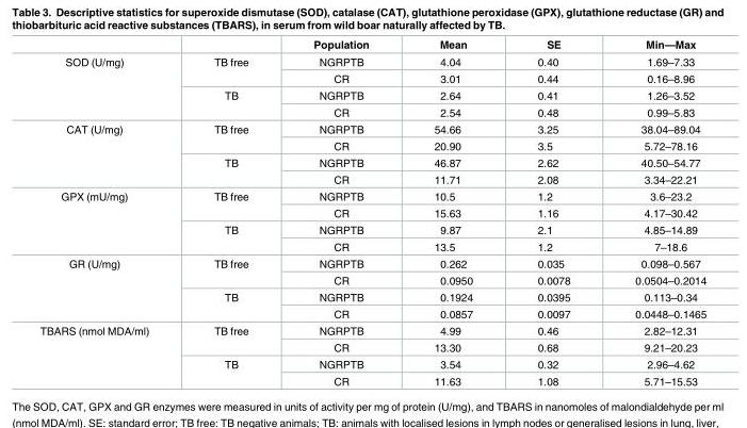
<table><thead><tr><td></td><td></td><td>Population</td><td>Mean</td><td>SE</td><td>Min—Max</td></tr></thead><tbody><tr><td rowspan="4">SOD (U/mg)</td><td rowspan="2">TB free</td><td>NGRPTB</td><td>4.04</td><td>0.40</td><td>1.69–7.33</td></tr><tr><td>CR</td><td>3.01</td><td>0.44</td><td>0.16–8.96</td></tr><tr><td rowspan="2">TB</td><td>NGRPTB</td><td>2.64</td><td>0.41</td><td>1.26–3.52</td></tr><tr><td>CR</td><td>2.54</td><td>0.48</td><td>0.99–5.83</td></tr><tr><td rowspan="4">CAT (U/mg)</td><td rowspan="2">TB free</td><td>NGRPTB</td><td>54.66</td><td>3.25</td><td>38.04–89.04</td></tr><tr><td>CR</td><td>20.90</td><td>3.5</td><td>5.72–78.16</td></tr><tr><td rowspan="2">TB</td><td>NGRPTB</td><td>46.87</td><td>2.62</td><td>40.50–54.77</td></tr><tr><td>CR</td><td>11.71</td><td>2.08</td><td>3.34–22.21</td></tr><tr><td rowspan="4">GPX (mU/mg)</td><td rowspan="2">TB free</td><td>NGRPTB</td><td>10.5</td><td>1.2</td><td>3.6–23.2</td></tr><tr><td>CR</td><td>15.63</td><td>1.16</td><td>4.17–30.42</td></tr><tr><td rowspan="2">TB</td><td>NGRPTB</td><td>9.87</td><td>2.1</td><td>4.85–14.89</td></tr><tr><td>CR</td><td>13.5</td><td>1.2</td><td>7–18.6</td></tr><tr><td rowspan="4">GR (U/mg)</td><td rowspan="2">TB free</td><td>NGRPTB</td><td>0.262</td><td>0.035</td><td>0.098–0.567</td></tr><tr><td>CR</td><td>0.0950</td><td>0.0078</td><td>0.0504–0.2014</td></tr><tr><td rowspan="2">TB</td><td>NGRPTB</td><td>0.1924</td><td>0.0395</td><td>0.113–0.34</td></tr><tr><td>CR</td><td>0.0857</td><td>0.0097</td><td>0.0448–0.1465</td></tr><tr><td rowspan="4">TBARS (nmol MDA/ml)</td><td rowspan="2">TB free</td><td>NGRPTB</td><td>4.99</td><td>0.46</td><td>2.82–12.31</td></tr><tr><td>CR</td><td>13.30</td><td>0.68</td><td>9.21–20.23</td></tr><tr><td rowspan="2">TB</td><td>NGRPTB</td><td>3.54</td><td>0.32</td><td>2.96–4.62</td></tr><tr><td>CR</td><td>11.63</td><td>1.08</td><td>5.71–15.53</td></tr></tbody></table>